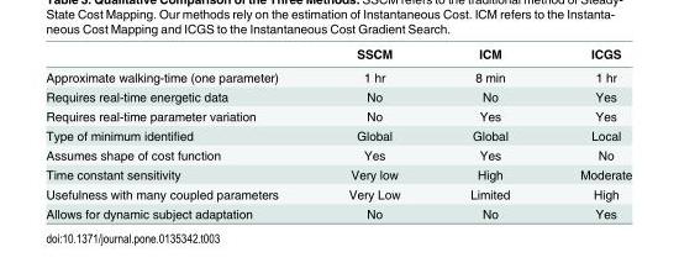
<table><thead><tr><td></td><td>SSCM</td><td>ICM</td><td>ICGS</td></tr></thead><tbody><tr><td>Approximate walking-time (one parameter)</td><td>1 hr</td><td>8 min</td><td>1 hr</td></tr><tr><td>Requires real-time energetic data</td><td>No</td><td>No</td><td>Yes</td></tr><tr><td>Requires real-time parameter variation</td><td>No</td><td>Yes</td><td>Yes</td></tr><tr><td>Type of minimum identified</td><td>Global</td><td>Global</td><td>Local</td></tr><tr><td>Assumes shape of cost function</td><td>Yes</td><td>Yes</td><td>No</td></tr><tr><td>Time constant sensitivity</td><td>Very low</td><td>High</td><td>Moderate</td></tr><tr><td>Usefulness with many coupled parameters</td><td>Very Low</td><td>Limited</td><td>High</td></tr><tr><td>Allows for dynamic subject adaptation</td><td>No</td><td>No</td><td>Yes</td></tr></tbody></table>